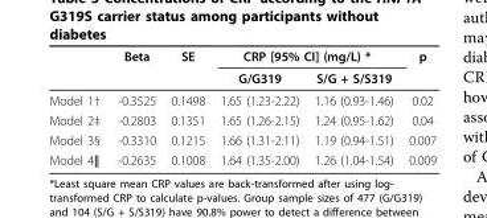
<table><thead><tr><td rowspan="2"></td><td rowspan="2">Beta</td><td rowspan="2">SE</td><td colspan="2">CRP [95% CI] (mg/L) *</td><td rowspan="2">p</td></tr><tr><td>G/G319</td><td>S/G + S/S319</td></tr></thead><tbody><tr><td>Model 1†</td><td>-0.3525</td><td>0.1498</td><td>1.65 (1.23-2.22)</td><td>1.16 (0.93-1.46)</td><td>0.02</td></tr><tr><td>Model 2‡</td><td>-0.2803</td><td>0.1351</td><td>1.65 (1.26-2.15)</td><td>1.24 (0.95-1.62)</td><td>0.04</td></tr><tr><td>Model 3§</td><td>-0.3310</td><td>0.1215</td><td>1.66 (1.31-2.11)</td><td>1.19 (0.94-1.51)</td><td>0.007</td></tr><tr><td>Model 4∥</td><td>-0.2635</td><td>0.1008</td><td>1.64 (1.35-2.00)</td><td>1.26 (1.04-1.54)</td><td>0.009</td></tr></tbody></table>